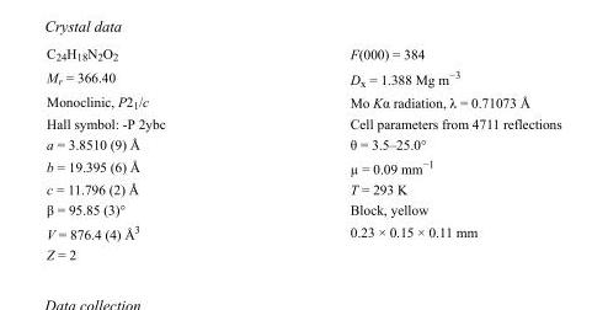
<table><tbody><tr><td>C<sub>24</sub>H<sub>18</sub>N<sub>2</sub>O<sub>2</sub></td><td>F(000) = 384</td></tr><tr><td>M<sub>r</sub> = 366.40</td><td>D<sub>x</sub> = 1.388 Mg m<sup>−3</sup></td></tr><tr><td>Monoclinic, P2<sub>1</sub>/c</td><td>Mo Kα radiation, λ = 0.71073 Å</td></tr><tr><td>Hall symbol: -P 2ybc</td><td>Cell parameters from 4711 reflections</td></tr><tr><td>a = 3.8510 (9) Å</td><td>θ = 3.5–25.0°</td></tr><tr><td>b = 19.395 (6) Å</td><td>µ = 0.09 mm<sup>−1</sup></td></tr><tr><td>c = 11.796 (2) Å</td><td>T = 293 K</td></tr><tr><td>β = 95.85 (3)°</td><td>Block, yellow</td></tr><tr><td>V = 876.4 (4) Å<sup>3</sup></td><td>0.23 × 0.15 × 0.11 mm</td></tr><tr><td>Z = 2</td><td></td></tr></tbody></table>